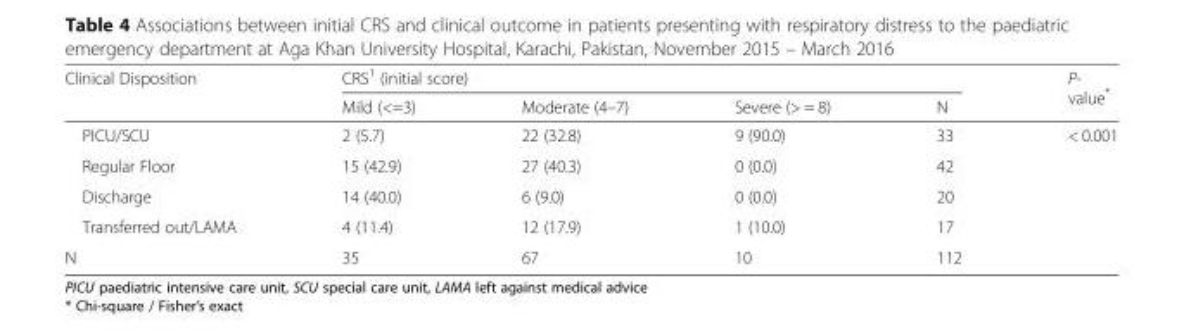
<table><thead><tr><td rowspan="2">Clinical Disposition</td><td colspan="4">CRS<sup>1</sup> (initial score)</td><td rowspan="2">P- value*</td></tr><tr><td>Mild (&lt;=3)</td><td>Moderate (4–7)</td><td>Severe (&gt; = 8)</td><td>N</td></tr></thead><tbody><tr><td>PICU/SCU</td><td>2 (5.7)</td><td>22 (32.8)</td><td>9 (90.0)</td><td>33</td><td rowspan="3">&lt; 0.001</td></tr><tr><td>Regular Floor</td><td>15 (42.9)</td><td>27 (40.3)</td><td>0 (0.0)</td><td>42</td></tr><tr><td>Discharge</td><td>14 (40.0)</td><td>6 (9.0)</td><td>0 (0.0)</td><td>20</td></tr><tr><td>Transferred out/LAMA</td><td>4 (11.4)</td><td>12 (17.9)</td><td>1 (10.0)</td><td>17</td><td></td></tr><tr><td>N</td><td>35</td><td>67</td><td>10</td><td>112</td><td></td></tr></tbody></table>